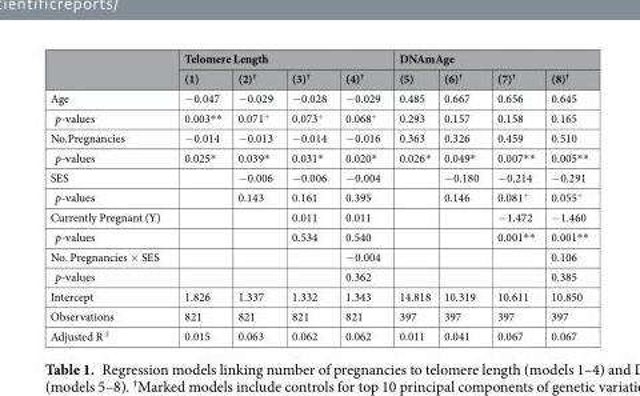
<table><thead><tr><td rowspan="2"></td><td colspan="4">Telomere Length</td><td colspan="4">DNAmAge</td></tr><tr><td>(1)</td><td>(2)<sup>†</sup></td><td>(3)<sup>†</sup></td><td>(4)<sup>†</sup></td><td>(5)</td><td>(6)<sup>†</sup></td><td>(7)<sup>†</sup></td><td>(8)<sup>†</sup></td></tr></thead><tbody><tr><td>Age</td><td>−0.047</td><td>−0.029</td><td>−0.028</td><td>−0.029</td><td>0.485</td><td>0.667</td><td>0.656</td><td>0.645</td></tr><tr><td>p-values</td><td>0.003**</td><td>0.071<sup>+</sup></td><td>0.073<sup>+</sup></td><td>0.068<sup>+</sup></td><td>0.293</td><td>0.157</td><td>0.158</td><td>0.165</td></tr><tr><td>No.Pregnancies</td><td>−0.014</td><td>−0.013</td><td>−0.014</td><td>−0.016</td><td>0.363</td><td>0.326</td><td>0.459</td><td>0.510</td></tr><tr><td>p-values</td><td>0.025*</td><td>0.039*</td><td>0.031*</td><td>0.020*</td><td>0.026*</td><td>0.049*</td><td>0.007**</td><td>0.005**</td></tr><tr><td>SES</td><td></td><td>−0.006</td><td>−0.006</td><td>−0.004</td><td></td><td>−0.180</td><td>−0.214</td><td>−0.291</td></tr><tr><td>p-values</td><td></td><td>0.143</td><td>0.161</td><td>0.395</td><td></td><td>0.146</td><td>0.081<sup>+</sup></td><td>0.055<sup>+</sup></td></tr><tr><td>Currently Pregnant (Y)</td><td></td><td></td><td>0.011</td><td>0.011</td><td></td><td></td><td>−1.472</td><td>−1.460</td></tr><tr><td>p-values</td><td></td><td></td><td>0.534</td><td>0.540</td><td></td><td></td><td>0.001**</td><td>0.001**</td></tr><tr><td>No. Pregnancies × SES</td><td></td><td></td><td></td><td>−0.004</td><td></td><td></td><td></td><td>0.106</td></tr><tr><td>p-values</td><td></td><td></td><td></td><td>0.362</td><td></td><td></td><td></td><td>0.385</td></tr><tr><td>Intercept</td><td>1.826</td><td>1.337</td><td>1.332</td><td>1.343</td><td>14.818</td><td>10.319</td><td>10.611</td><td>10.850</td></tr><tr><td>Observations</td><td>821</td><td>821</td><td>821</td><td>821</td><td>397</td><td>397</td><td>397</td><td>397</td></tr><tr><td>Adjusted R <sup>2</sup></td><td>0.015</td><td>0.063</td><td>0.062</td><td>0.062</td><td>0.011</td><td>0.041</td><td>0.067</td><td>0.067</td></tr></tbody></table>